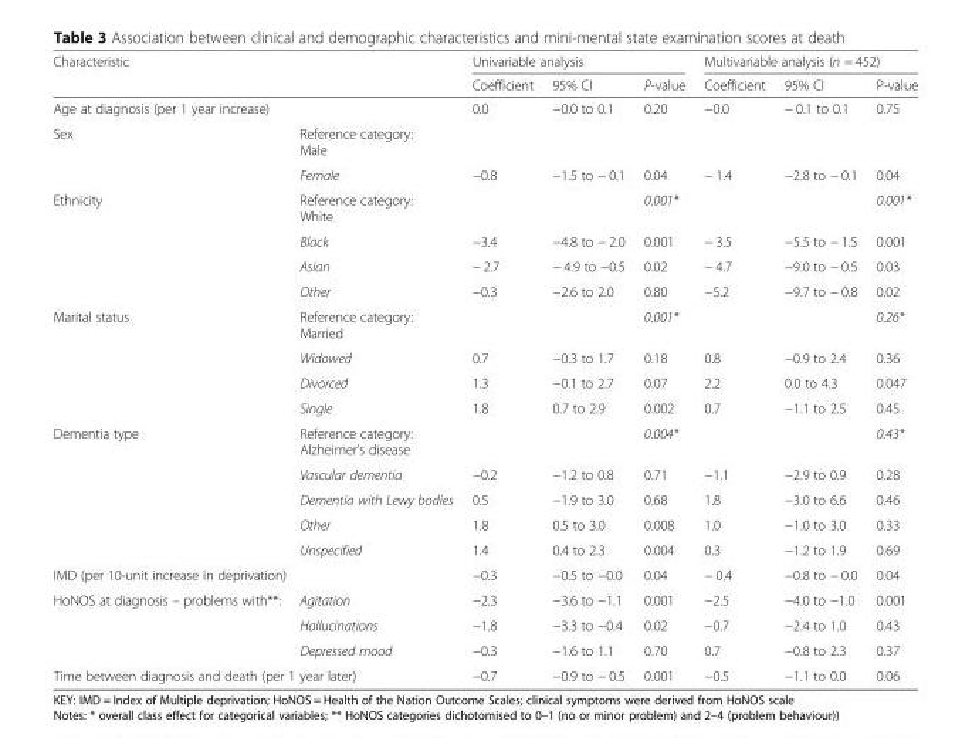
<table><thead><tr><td rowspan="2">Characteristic</td><td rowspan="2"></td><td colspan="3">Univariable analysis</td><td colspan="3">Multivariable analysis (n = 452)</td></tr><tr><td>Coefficient</td><td>95% CI</td><td>P-value</td><td>Coefficient</td><td>95% CI</td><td>P-value</td></tr></thead><tbody><tr><td colspan="2">Age at diagnosis (per 1 year increase)</td><td>0.0</td><td>−0.0 to 0.1</td><td>0.20</td><td>−0.0</td><td>− 0.1 to 0.1</td><td>0.75</td></tr><tr><td rowspan="2">Sex</td><td>Reference category: Male</td><td></td><td></td><td></td><td></td><td></td><td></td></tr><tr><td>Female</td><td>−0.8</td><td>−1.5 to − 0.1</td><td>0.04</td><td>− 1.4</td><td>−2.8 to − 0.1</td><td>0.04</td></tr><tr><td rowspan="4">Ethnicity</td><td>Reference category: White</td><td></td><td></td><td>0.001*</td><td></td><td></td><td>0.001*</td></tr><tr><td>Black</td><td>−3.4</td><td>−4.8 to − 2.0</td><td>0.001</td><td>− 3.5</td><td>−5.5 to − 1.5</td><td>0.001</td></tr><tr><td>Asian</td><td>− 2.7</td><td>− 4.9 to −0.5</td><td>0.02</td><td>− 4.7</td><td>−9.0 to − 0.5</td><td>0.03</td></tr><tr><td>Other</td><td>−0.3</td><td>−2.6 to 2.0</td><td>0.80</td><td>−5.2</td><td>−9.7 to − 0.8</td><td>0.02</td></tr><tr><td rowspan="4">Marital status</td><td>Reference category: Married</td><td></td><td></td><td>0.001*</td><td></td><td></td><td>0.26*</td></tr><tr><td>Widowed</td><td>0.7</td><td>−0.3 to 1.7</td><td>0.18</td><td>0.8</td><td>−0.9 to 2.4</td><td>0.36</td></tr><tr><td>Divorced</td><td>1.3</td><td>−0.1 to 2.7</td><td>0.07</td><td>2.2</td><td>0.0 to 4.3</td><td>0.047</td></tr><tr><td>Single</td><td>1.8</td><td>0.7 to 2.9</td><td>0.002</td><td>0.7</td><td>−1.1 to 2.5</td><td>0.45</td></tr><tr><td rowspan="5">Dementia type</td><td>Reference category: Alzheimer’s disease</td><td></td><td></td><td>0.004*</td><td></td><td></td><td>0.43*</td></tr><tr><td>Vascular dementia</td><td>−0.2</td><td>−1.2 to 0.8</td><td>0.71</td><td>−1.1</td><td>−2.9 to 0.9</td><td>0.28</td></tr><tr><td>Dementia with Lewy bodies</td><td>0.5</td><td>−1.9 to 3.0</td><td>0.68</td><td>1.8</td><td>−3.0 to 6.6</td><td>0.46</td></tr><tr><td>Other</td><td>1.8</td><td>0.5 to 3.0</td><td>0.008</td><td>1.0</td><td>−1.0 to 3.0</td><td>0.33</td></tr><tr><td>Unspecified</td><td>1.4</td><td>0.4 to 2.3</td><td>0.004</td><td>0.3</td><td>−1.2 to 1.9</td><td>0.69</td></tr><tr><td colspan="2">IMD (per 10-unit increase in deprivation)</td><td>−0.3</td><td>−0.5 to −0.0</td><td>0.04</td><td>− 0.4</td><td>−0.8 to − 0.0</td><td>0.04</td></tr><tr><td rowspan="3">HoNOS at diagnosis – problems with**:</td><td>Agitation</td><td>−2.3</td><td>−3.6 to −1.1</td><td>0.001</td><td>−2.5</td><td>−4.0 to −1.0</td><td>0.001</td></tr><tr><td>Hallucinations</td><td>−1.8</td><td>−3.3 to −0.4</td><td>0.02</td><td>−0.7</td><td>−2.4 to 1.0</td><td>0.43</td></tr><tr><td>Depressed mood</td><td>−0.3</td><td>−1.6 to 1.1</td><td>0.70</td><td>0.7</td><td>−0.8 to 2.3</td><td>0.37</td></tr><tr><td colspan="2">Time between diagnosis and death (per 1 year later)</td><td>−0.7</td><td>−0.9 to − 0.5</td><td>0.001</td><td>−0.5</td><td>−1.1 to 0.0</td><td>0.06</td></tr></tbody></table>